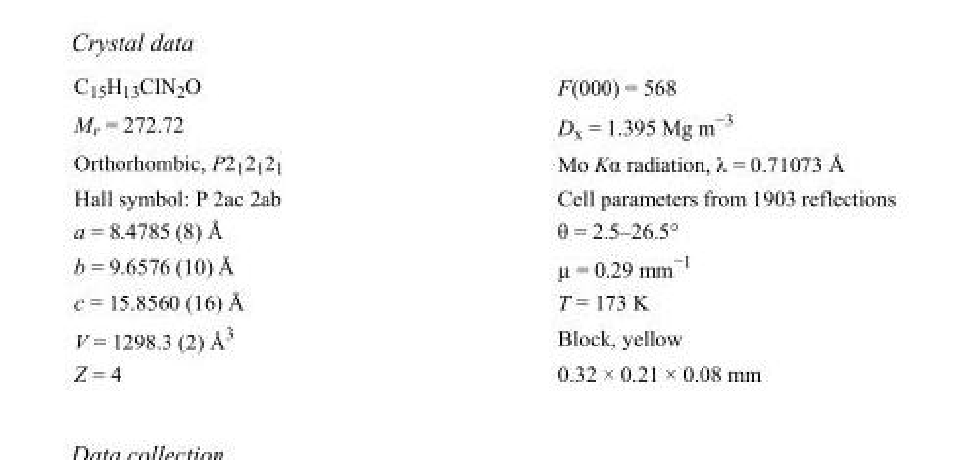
<table><tbody><tr><td>C<sub>15</sub>H<sub>13</sub>ClN<sub>2</sub>O</td><td>F(000) = 568</td></tr><tr><td>M<sub>r</sub> = 272.72</td><td>D<sub>x</sub> = 1.395 Mg m<sup>−3</sup></td></tr><tr><td>Orthorhombic, P2<sub>1</sub>2<sub>1</sub>2<sub>1</sub></td><td>Mo Kα radiation, λ = 0.71073 Å</td></tr><tr><td>Hall symbol: P 2ac 2ab</td><td>Cell parameters from 1903 reflections</td></tr><tr><td>a = 8.4785 (8) Å</td><td>θ = 2.5–26.5°</td></tr><tr><td>b = 9.6576 (10) Å</td><td>µ = 0.29 mm<sup>−1</sup></td></tr><tr><td>c = 15.8560 (16) Å</td><td>T = 173 K</td></tr><tr><td>V = 1298.3 (2) Å<sup>3</sup></td><td>Block, yellow</td></tr><tr><td>Z = 4</td><td>0.32 × 0.21 × 0.08 mm</td></tr></tbody></table>